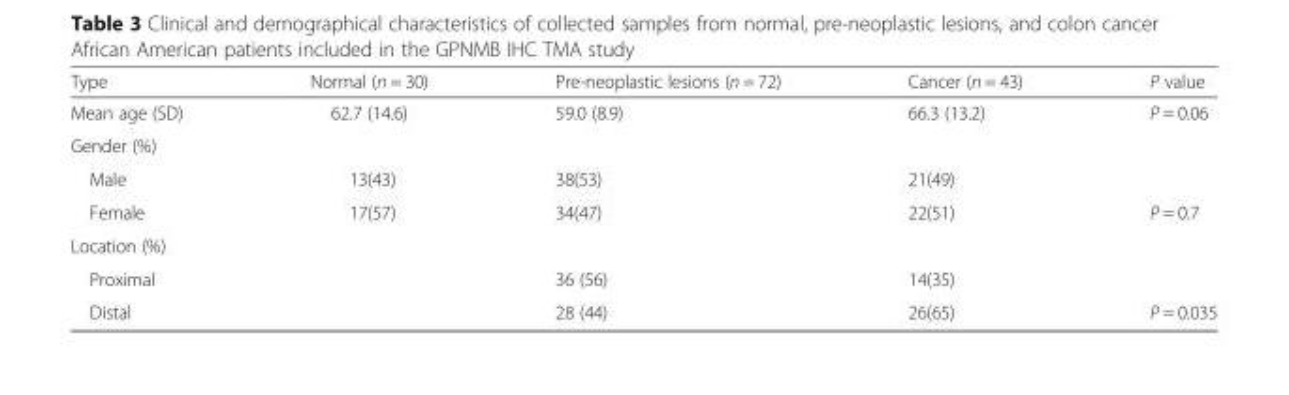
<table><thead><tr><td>Type</td><td>Normal (n = 30)</td><td>Pre-neoplastic lesions (n = 72)</td><td>Cancer (n = 43)</td><td>P value</td></tr></thead><tbody><tr><td>Mean age (SD)</td><td>62.7 (14.6)</td><td>59.0 (8.9)</td><td>66.3 (13.2)</td><td>P = 0.06</td></tr><tr><td colspan="5">Gender (%)</td></tr><tr><td>Male</td><td>13(43)</td><td>38(53)</td><td>21(49)</td><td></td></tr><tr><td>Female</td><td>17(57)</td><td>34(47)</td><td>22(51)</td><td>P = 0.7</td></tr><tr><td colspan="5">Location (%)</td></tr><tr><td>Proximal</td><td></td><td>36 (56)</td><td>14(35)</td><td></td></tr><tr><td>Distal</td><td></td><td>28 (44)</td><td>26(65)</td><td>P = 0.035</td></tr></tbody></table>